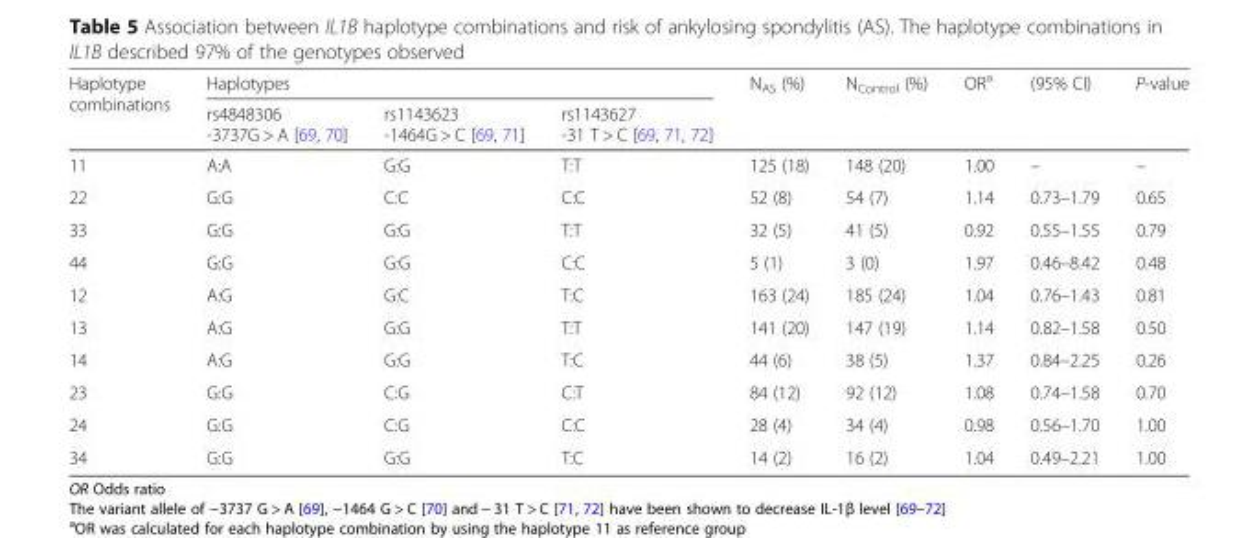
<table><thead><tr><td rowspan="2">Haplotype combinations</td><td colspan="3">Haplotypes</td><td rowspan="2">N<sub>AS</sub> (%)</td><td rowspan="2">N<sub>Control</sub> (%)</td><td rowspan="2">OR<sup>a</sup></td><td rowspan="2">(95% CI)</td><td rowspan="2">P-value</td></tr><tr><td>rs4848306 -3737G &gt; A [69, 70]</td><td>rs1143623 -1464G &gt; C [69, 71]</td><td>rs1143627 -31 T &gt; C [69, 71, 72]</td></tr></thead><tbody><tr><td>11</td><td>A:A</td><td>G:G</td><td>T:T</td><td>125 (18)</td><td>148 (20)</td><td>1.00</td><td>–</td><td>–</td></tr><tr><td>22</td><td>G:G</td><td>C:C</td><td>C:C</td><td>52 (8)</td><td>54 (7)</td><td>1.14</td><td>0.73–1.79</td><td>0.65</td></tr><tr><td>33</td><td>G:G</td><td>G:G</td><td>T:T</td><td>32 (5)</td><td>41 (5)</td><td>0.92</td><td>0.55–1.55</td><td>0.79</td></tr><tr><td>44</td><td>G:G</td><td>G:G</td><td>C:C</td><td>5 (1)</td><td>3 (0)</td><td>1.97</td><td>0.46–8.42</td><td>0.48</td></tr><tr><td>12</td><td>A:G</td><td>G:C</td><td>T:C</td><td>163 (24)</td><td>185 (24)</td><td>1.04</td><td>0.76–1.43</td><td>0.81</td></tr><tr><td>13</td><td>A:G</td><td>G:G</td><td>T:T</td><td>141 (20)</td><td>147 (19)</td><td>1.14</td><td>0.82–1.58</td><td>0.50</td></tr><tr><td>14</td><td>A:G</td><td>G:G</td><td>T:C</td><td>44 (6)</td><td>38 (5)</td><td>1.37</td><td>0.84–2.25</td><td>0.26</td></tr><tr><td>23</td><td>G:G</td><td>C:G</td><td>C:T</td><td>84 (12)</td><td>92 (12)</td><td>1.08</td><td>0.74–1.58</td><td>0.70</td></tr><tr><td>24</td><td>G:G</td><td>C:G</td><td>C:C</td><td>28 (4)</td><td>34 (4)</td><td>0.98</td><td>0.56–1.70</td><td>1.00</td></tr><tr><td>34</td><td>G:G</td><td>G:G</td><td>T:C</td><td>14 (2)</td><td>16 (2)</td><td>1.04</td><td>0.49–2.21</td><td>1.00</td></tr></tbody></table>